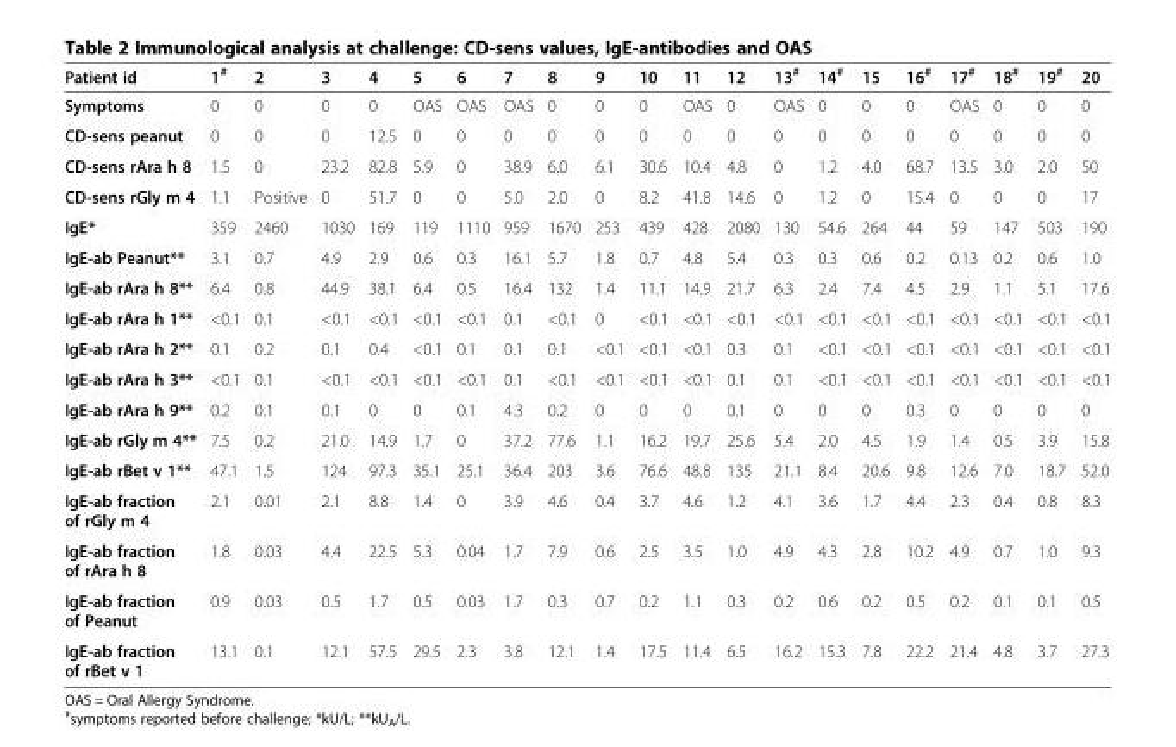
<table><thead><tr><td>Patient id</td><td>1<sup>#</sup></td><td>2</td><td>3</td><td>4</td><td>5</td><td>6</td><td>7</td><td>8</td><td>9</td><td>10</td><td>11</td><td>12</td><td>13<sup>#</sup></td><td>14<sup>#</sup></td><td>15</td><td>16<sup>#</sup></td><td>17<sup>#</sup></td><td>18<sup>#</sup></td><td>19<sup>#</sup></td><td>20</td></tr></thead><tbody><tr><td>Symptoms</td><td>0</td><td>0</td><td>0</td><td>0</td><td>OAS</td><td>OAS</td><td>OAS</td><td>0</td><td>0</td><td>0</td><td>OAS</td><td>0</td><td>OAS</td><td>0</td><td>0</td><td>0</td><td>OAS</td><td>0</td><td>0</td><td>0</td></tr><tr><td>CD-sens peanut</td><td>0</td><td>0</td><td>0</td><td>12.5</td><td>0</td><td>0</td><td>0</td><td>0</td><td>0</td><td>0</td><td>0</td><td>0</td><td>0</td><td>0</td><td>0</td><td>0</td><td>0</td><td>0</td><td>0</td><td>0</td></tr><tr><td>CD-sens rAra h 8</td><td>1.5</td><td>0</td><td>23.2</td><td>82.8</td><td>5.9</td><td>0</td><td>38.9</td><td>6.0</td><td>6.1</td><td>30.6</td><td>10.4</td><td>4.8</td><td>0</td><td>1.2</td><td>4.0</td><td>68.7</td><td>13.5</td><td>3.0</td><td>2.0</td><td>50</td></tr><tr><td>CD-sens rGly m 4</td><td>1.1</td><td>Positive</td><td>0</td><td>51.7</td><td>0</td><td>0</td><td>5.0</td><td>2.0</td><td>0</td><td>8.2</td><td>41.8</td><td>14.6</td><td>0</td><td>1.2</td><td>0</td><td>15.4</td><td>0</td><td>0</td><td>0</td><td>17</td></tr><tr><td>IgE*</td><td>359</td><td>2460</td><td>1030</td><td>169</td><td>119</td><td>1110</td><td>959</td><td>1670</td><td>253</td><td>439</td><td>428</td><td>2080</td><td>130</td><td>54.6</td><td>264</td><td>44</td><td>59</td><td>147</td><td>503</td><td>190</td></tr><tr><td>IgE-ab Peanut**</td><td>3.1</td><td>0.7</td><td>4.9</td><td>2.9</td><td>0.6</td><td>0.3</td><td>16.1</td><td>5.7</td><td>1.8</td><td>0.7</td><td>4.8</td><td>5.4</td><td>0.3</td><td>0.3</td><td>0.6</td><td>0.2</td><td>0.13</td><td>0.2</td><td>0.6</td><td>1.0</td></tr><tr><td>IgE-ab rAra h 8**</td><td>6.4</td><td>0.8</td><td>44.9</td><td>38.1</td><td>6.4</td><td>0.5</td><td>16.4</td><td>132</td><td>1.4</td><td>11.1</td><td>14.9</td><td>21.7</td><td>6.3</td><td>2.4</td><td>7.4</td><td>4.5</td><td>2.9</td><td>1.1</td><td>5.1</td><td>17.6</td></tr><tr><td>IgE-ab rAra h 1**</td><td>&lt;0.1</td><td>0.1</td><td>&lt;0.1</td><td>&lt;0.1</td><td>&lt;0.1</td><td>&lt;0.1</td><td>0.1</td><td>&lt;0.1</td><td>0</td><td>&lt;0.1</td><td>&lt;0.1</td><td>&lt;0.1</td><td>&lt;0.1</td><td>&lt;0.1</td><td>&lt;0.1</td><td>&lt;0.1</td><td>&lt;0.1</td><td>&lt;0.1</td><td>&lt;0.1</td><td>&lt;0.1</td></tr><tr><td>IgE-ab rAra h 2**</td><td>0.1</td><td>0.2</td><td>0.1</td><td>0.4</td><td>&lt;0.1</td><td>0.1</td><td>0.1</td><td>0.1</td><td>&lt;0.1</td><td>&lt;0.1</td><td>&lt;0.1</td><td>0.3</td><td>0.1</td><td>&lt;0.1</td><td>&lt;0.1</td><td>&lt;0.1</td><td>&lt;0.1</td><td>&lt;0.1</td><td>&lt;0.1</td><td>&lt;0.1</td></tr><tr><td>IgE-ab rAra h 3**</td><td>&lt;0.1</td><td>0.1</td><td>&lt;0.1</td><td>&lt;0.1</td><td>&lt;0.1</td><td>&lt;0.1</td><td>0.1</td><td>&lt;0.1</td><td>&lt;0.1</td><td>&lt;0.1</td><td>&lt;0.1</td><td>0.1</td><td>0.1</td><td>&lt;0.1</td><td>&lt;0.1</td><td>&lt;0.1</td><td>&lt;0.1</td><td>&lt;0.1</td><td>&lt;0.1</td><td>&lt;0.1</td></tr><tr><td>IgE-ab rAra h 9**</td><td>0.2</td><td>0.1</td><td>0.1</td><td>0</td><td>0</td><td>0.1</td><td>4.3</td><td>0.2</td><td>0</td><td>0</td><td>0</td><td>0.1</td><td>0</td><td>0</td><td>0</td><td>0.3</td><td>0</td><td>0</td><td>0</td><td>0</td></tr><tr><td>IgE-ab rGly m 4**</td><td>7.5</td><td>0.2</td><td>21.0</td><td>14.9</td><td>1.7</td><td>0</td><td>37.2</td><td>77.6</td><td>1.1</td><td>16.2</td><td>19.7</td><td>25.6</td><td>5.4</td><td>2.0</td><td>4.5</td><td>1.9</td><td>1.4</td><td>0.5</td><td>3.9</td><td>15.8</td></tr><tr><td>IgE-ab rBet v 1**</td><td>47.1</td><td>1.5</td><td>124</td><td>97.3</td><td>35.1</td><td>25.1</td><td>36.4</td><td>203</td><td>3.6</td><td>76.6</td><td>48.8</td><td>135</td><td>21.1</td><td>8.4</td><td>20.6</td><td>9.8</td><td>12.6</td><td>7.0</td><td>18.7</td><td>52.0</td></tr><tr><td>IgE-ab fraction of rGly m 4</td><td>2.1</td><td>0.01</td><td>2.1</td><td>8.8</td><td>1.4</td><td>0</td><td>3.9</td><td>4.6</td><td>0.4</td><td>3.7</td><td>4.6</td><td>1.2</td><td>4.1</td><td>3.6</td><td>1.7</td><td>4.4</td><td>2.3</td><td>0.4</td><td>0.8</td><td>8.3</td></tr><tr><td>IgE-ab fraction of rAra h 8</td><td>1.8</td><td>0.03</td><td>4.4</td><td>22.5</td><td>5.3</td><td>0.04</td><td>1.7</td><td>7.9</td><td>0.6</td><td>2.5</td><td>3.5</td><td>1.0</td><td>4.9</td><td>4.3</td><td>2.8</td><td>10.2</td><td>4.9</td><td>0.7</td><td>1.0</td><td>9.3</td></tr><tr><td>IgE-ab fraction of Peanut</td><td>0.9</td><td>0.03</td><td>0.5</td><td>1.7</td><td>0.5</td><td>0.03</td><td>1.7</td><td>0.3</td><td>0.7</td><td>0.2</td><td>1.1</td><td>0.3</td><td>0.2</td><td>0.6</td><td>0.2</td><td>0.5</td><td>0.2</td><td>0.1</td><td>0.1</td><td>0.5</td></tr><tr><td>IgE-ab fraction of rBet v 1</td><td>13.1</td><td>0.1</td><td>12.1</td><td>57.5</td><td>29.5</td><td>2.3</td><td>3.8</td><td>12.1</td><td>1.4</td><td>17.5</td><td>11.4</td><td>6.5</td><td>16.2</td><td>15.3</td><td>7.8</td><td>22.2</td><td>21.4</td><td>4.8</td><td>3.7</td><td>27.3</td></tr></tbody></table>